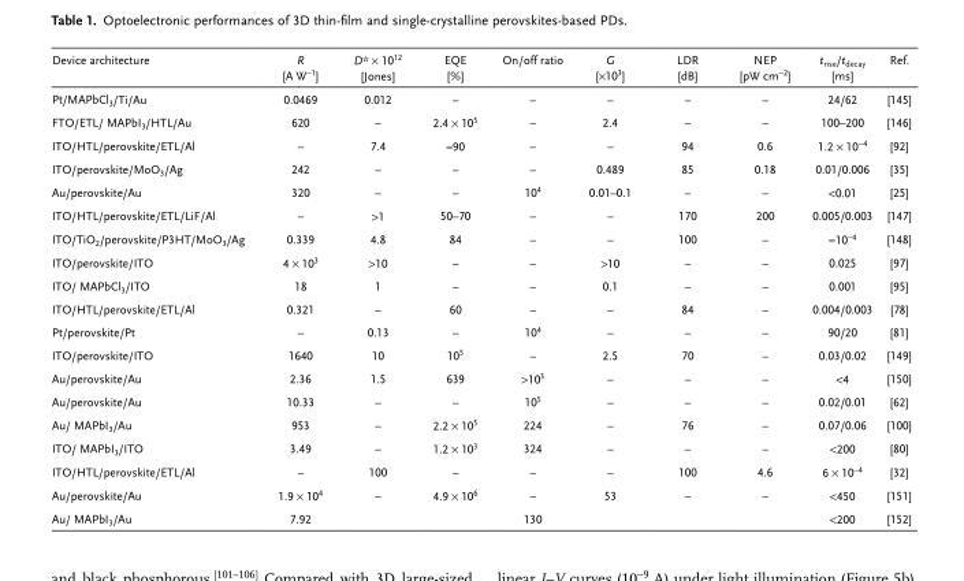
<table><thead><tr><td>Device architecture</td><td>R [A W<sup>−1</sup>]</td><td>D* × 10<sup>12</sup> [Jones]</td><td>EQE [%]</td><td>On/off ratio</td><td>G [×10<sup>3</sup>]</td><td>LDR [dB]</td><td>NEP [pW cm<sup>−2</sup>]</td><td>t<sub>rise</sub>/t<sub>decay</sub> [ms]</td><td>Ref.</td></tr></thead><tbody><tr><td>Pt/MAPbCl<sub>3</sub>/Ti/Au</td><td>0.0469</td><td>0.012</td><td>–</td><td>–</td><td>–</td><td>–</td><td>–</td><td>24/62</td><td>[145]</td></tr><tr><td>FTO/ETL/ MAPbI<sub>3</sub>/HTL/Au</td><td>620</td><td>–</td><td>2.4 × 10<sup>5</sup></td><td>–</td><td>2.4</td><td>–</td><td>–</td><td>100–200</td><td>[146]</td></tr><tr><td>ITO/HTL/perovskite/ETL/Al</td><td>–</td><td>7.4</td><td>≈90</td><td>–</td><td>–</td><td>94</td><td>0.6</td><td>1.2 × 10<sup>−4</sup></td><td>[92]</td></tr><tr><td>ITO/perovskite/MoO<sub>3</sub>/Ag</td><td>242</td><td>–</td><td>–</td><td>–</td><td>0.489</td><td>85</td><td>0.18</td><td>0.01/0.006</td><td>[35]</td></tr><tr><td>Au/perovskite/Au</td><td>320</td><td>–</td><td>–</td><td>10<sup>4</sup></td><td>0.01–0.1</td><td>–</td><td>–</td><td>&lt;0.01</td><td>[25]</td></tr><tr><td>ITO/HTL/perovskite/ETL/LiF/Al</td><td>–</td><td>&gt;1</td><td>50–70</td><td>–</td><td>–</td><td>170</td><td>200</td><td>0.005/0.003</td><td>[147]</td></tr><tr><td>ITO/TiO<sub>2</sub>/perovskite/P3HT/MoO<sub>3</sub>/Ag</td><td>0.339</td><td>4.8</td><td>84</td><td>–</td><td>–</td><td>100</td><td>–</td><td>≈10<sup>−4</sup></td><td>[148]</td></tr><tr><td>ITO/perovskite/ITO</td><td>4 × 10<sup>3</sup></td><td>&gt;10</td><td>–</td><td>–</td><td>&gt;10</td><td>–</td><td>–</td><td>0.025</td><td>[97]</td></tr><tr><td>ITO/ MAPbCl<sub>3</sub>/ITO</td><td>18</td><td>1</td><td>–</td><td>–</td><td>0.1</td><td>–</td><td>–</td><td>0.001</td><td>[95]</td></tr><tr><td>ITO/HTL/perovskite/ETL/Al</td><td>0.321</td><td>–</td><td>60</td><td>–</td><td>–</td><td>84</td><td>–</td><td>0.004/0.003</td><td>[78]</td></tr><tr><td>Pt/perovskite/Pt</td><td>–</td><td>0.13</td><td>–</td><td>10<sup>4</sup></td><td>–</td><td>–</td><td>–</td><td>90/20</td><td>[81]</td></tr><tr><td>ITO/perovskite/ITO</td><td>1640</td><td>10</td><td>10<sup>5</sup></td><td>–</td><td>2.5</td><td>70</td><td>–</td><td>0.03/0.02</td><td>[149]</td></tr><tr><td>Au/perovskite/Au</td><td>2.36</td><td>1.5</td><td>639</td><td>&gt;10<sup>3</sup></td><td>–</td><td>–</td><td>–</td><td>&lt;4</td><td>[150]</td></tr><tr><td>Au/perovskite/Au</td><td>10.33</td><td>–</td><td>–</td><td>10<sup>5</sup></td><td>–</td><td>–</td><td>–</td><td>0.02/0.01</td><td>[62]</td></tr><tr><td>Au/ MAPbI<sub>3</sub>/Au</td><td>953</td><td>–</td><td>2.2 × 10<sup>5</sup></td><td>224</td><td>–</td><td>76</td><td>–</td><td>0.07/0.06</td><td>[100]</td></tr><tr><td>ITO/ MAPbI<sub>3</sub>/ITO</td><td>3.49</td><td>–</td><td>1.2 × 10<sup>3</sup></td><td>324</td><td>–</td><td>–</td><td>–</td><td>&lt;200</td><td>[80]</td></tr><tr><td>ITO/HTL/perovskite/ETL/Al</td><td>–</td><td>100</td><td>–</td><td>–</td><td>–</td><td>100</td><td>4.6</td><td>6 × 10<sup>−4</sup></td><td>[32]</td></tr><tr><td>Au/perovskite/Au</td><td>1.9 × 10<sup>4</sup></td><td>–</td><td>4.9 × 10<sup>6</sup></td><td>–</td><td>53</td><td>–</td><td>–</td><td>&lt;450</td><td>[151]</td></tr><tr><td>Au/ MAPbI<sub>3</sub>/Au</td><td>7.92</td><td></td><td></td><td>130</td><td></td><td></td><td></td><td>&lt;200</td><td>[152]</td></tr></tbody></table>